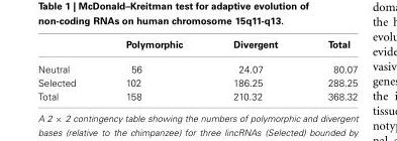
<table><thead><tr><td></td><td>Polymorphic</td><td>Divergent</td><td>Total</td></tr></thead><tbody><tr><td>Neutral</td><td>56</td><td>24.07</td><td>80.07</td></tr><tr><td>Selected</td><td>102</td><td>186.25</td><td>288.25</td></tr><tr><td>Total</td><td>158</td><td>210.32</td><td>368.32</td></tr></tbody></table>